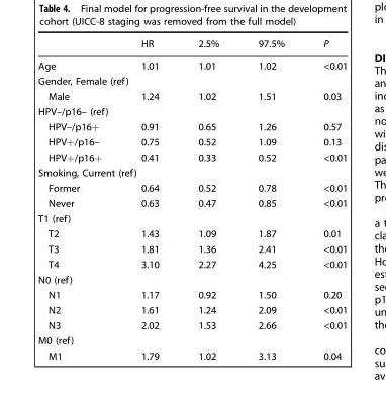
<table><thead><tr><td></td><td>HR</td><td>2.5%</td><td>97.5%</td><td>P</td></tr></thead><tbody><tr><td>Age</td><td>1.01</td><td>1.01</td><td>1.02</td><td>&lt;0.01</td></tr><tr><td colspan="5">Gender, Female (ref)</td></tr><tr><td>Male</td><td>1.24</td><td>1.02</td><td>1.51</td><td>0.03</td></tr><tr><td colspan="5">HPV–/p16– (ref)</td></tr><tr><td>HPV–/p16+</td><td>0.91</td><td>0.65</td><td>1.26</td><td>0.57</td></tr><tr><td>HPV+/p16–</td><td>0.75</td><td>0.52</td><td>1.09</td><td>0.13</td></tr><tr><td>HPV+/p16+</td><td>0.41</td><td>0.33</td><td>0.52</td><td>&lt;0.01</td></tr><tr><td colspan="5">Smoking, Current (ref)</td></tr><tr><td>Former</td><td>0.64</td><td>0.52</td><td>0.78</td><td>&lt;0.01</td></tr><tr><td>Never</td><td>0.63</td><td>0.47</td><td>0.85</td><td>&lt;0.01</td></tr><tr><td colspan="5">T1 (ref)</td></tr><tr><td>T2</td><td>1.43</td><td>1.09</td><td>1.87</td><td>0.01</td></tr><tr><td>T3</td><td>1.81</td><td>1.36</td><td>2.41</td><td>&lt;0.01</td></tr><tr><td>T4</td><td>3.10</td><td>2.27</td><td>4.25</td><td>&lt;0.01</td></tr><tr><td colspan="5">N0 (ref)</td></tr><tr><td>N1</td><td>1.17</td><td>0.92</td><td>1.50</td><td>0.20</td></tr><tr><td>N2</td><td>1.61</td><td>1.24</td><td>2.09</td><td>&lt;0.01</td></tr><tr><td>N3</td><td>2.02</td><td>1.53</td><td>2.66</td><td>&lt;0.01</td></tr><tr><td colspan="5">M0 (ref)</td></tr><tr><td>M1</td><td>1.79</td><td>1.02</td><td>3.13</td><td>0.04</td></tr></tbody></table>